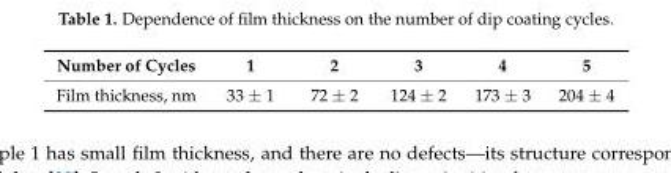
<table><thead><tr><td>Number of Cycles</td><td>1</td><td>2</td><td>3</td><td>4</td><td>5</td></tr></thead><tbody><tr><td>Film thickness, nm</td><td>33 ± 1</td><td>72 ± 2</td><td>124 ± 2</td><td>173 ± 3</td><td>204 ± 4</td></tr></tbody></table>